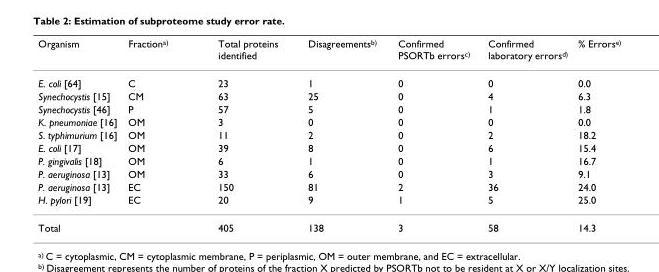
<table><thead><tr><td>Organism</td><td>Fraction<sup>a)</sup></td><td>Total proteins identified</td><td>Disagreements<sup>b)</sup></td><td>Confirmed PSORTb errors<sup>c)</sup></td><td>Confirmed laboratory errors<sup>d)</sup></td><td>% Errors<sup>e)</sup></td></tr></thead><tbody><tr><td>E. coli [64]</td><td>C</td><td>23</td><td>1</td><td>0</td><td>0</td><td>0.0</td></tr><tr><td>Synechocystis [15]</td><td>CM</td><td>63</td><td>25</td><td>0</td><td>4</td><td>6.3</td></tr><tr><td>Synechocystis [46]</td><td>P</td><td>57</td><td>5</td><td>0</td><td>1</td><td>1.8</td></tr><tr><td>K. pneumoniae [16]</td><td>OM</td><td>3</td><td>0</td><td>0</td><td>0</td><td>0.0</td></tr><tr><td>S. typhimurium [16]</td><td>OM</td><td>11</td><td>2</td><td>0</td><td>2</td><td>18.2</td></tr><tr><td>E. coli [17]</td><td>OM</td><td>39</td><td>8</td><td>0</td><td>6</td><td>15.4</td></tr><tr><td>P. gingivalis [18]</td><td>OM</td><td>6</td><td>1</td><td>0</td><td>1</td><td>16.7</td></tr><tr><td>P. aeruginosa [13]</td><td>OM</td><td>33</td><td>6</td><td>0</td><td>3</td><td>9.1</td></tr><tr><td>P. aeruginosa [13]</td><td>EC</td><td>150</td><td>81</td><td>2</td><td>36</td><td>24.0</td></tr><tr><td>H. pylori [19]</td><td>EC</td><td>20</td><td>9</td><td>1</td><td>5</td><td>25.0</td></tr><tr><td>Total</td><td></td><td>405</td><td>138</td><td>3</td><td>58</td><td>14.3</td></tr></tbody></table>